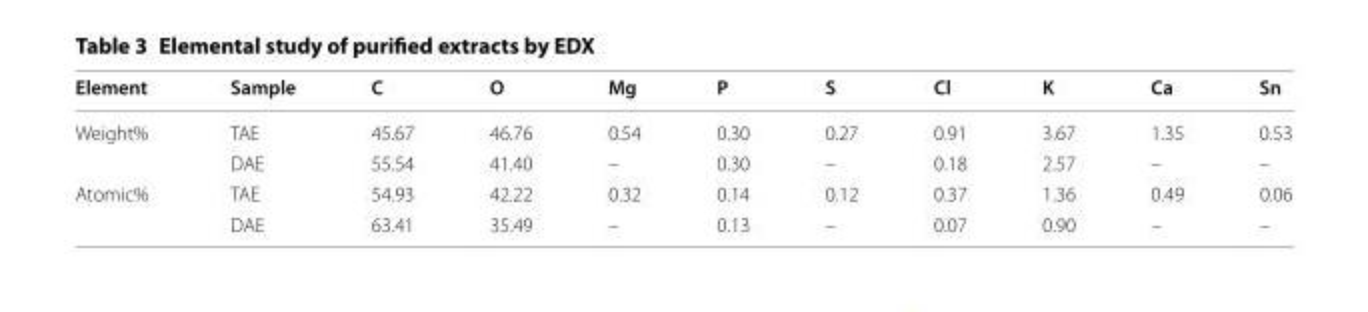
<table><thead><tr><td>Element</td><td>Sample</td><td>C</td><td>O</td><td>Mg</td><td>P</td><td>S</td><td>Cl</td><td>K</td><td>Ca</td><td>Sn</td></tr></thead><tbody><tr><td rowspan="2">Weight%</td><td>TAE</td><td>45.67</td><td>46.76</td><td>0.54</td><td>0.30</td><td>0.27</td><td>0.91</td><td>3.67</td><td>1.35</td><td>0.53</td></tr><tr><td>DAE</td><td>55.54</td><td>41.40</td><td>–</td><td>0.30</td><td>–</td><td>0.18</td><td>2.57</td><td>–</td><td>–</td></tr><tr><td rowspan="2">Atomic%</td><td>TAE</td><td>54.93</td><td>42.22</td><td>0.32</td><td>0.14</td><td>0.12</td><td>0.37</td><td>1.36</td><td>0.49</td><td>0.06</td></tr><tr><td>DAE</td><td>63.41</td><td>35.49</td><td>–</td><td>0.13</td><td>–</td><td>0.07</td><td>0.90</td><td>–</td><td>–</td></tr></tbody></table>